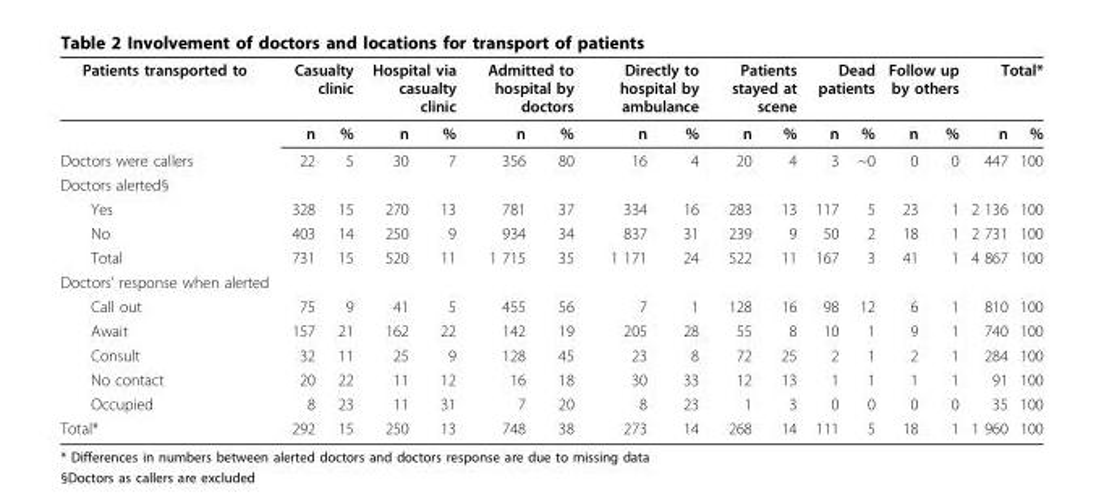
<table><thead><tr><td rowspan="2">Patients transported to</td><td colspan="2">Casualty clinic</td><td colspan="2">Hospital via casualty clinic</td><td colspan="2">Admitted to hospital by doctors</td><td colspan="2">Directly to hospital by ambulance</td><td colspan="2">Patients stayed at scene</td><td colspan="2">Dead patients</td><td colspan="2">Follow up by others</td><td colspan="2">Total*</td></tr><tr><td>n</td><td>%</td><td>n</td><td>%</td><td>n</td><td>%</td><td>n</td><td>%</td><td>n</td><td>%</td><td>n</td><td>%</td><td>n</td><td>%</td><td>n</td><td>%</td></tr></thead><tbody><tr><td>Doctors were callers</td><td>22</td><td>5</td><td>30</td><td>7</td><td>356</td><td>80</td><td>16</td><td>4</td><td>20</td><td>4</td><td>3</td><td>~0</td><td>0</td><td>0</td><td>447</td><td>100</td></tr><tr><td colspan="17">Doctors alerted§</td></tr><tr><td>Yes</td><td>328</td><td>15</td><td>270</td><td>13</td><td>781</td><td>37</td><td>334</td><td>16</td><td>283</td><td>13</td><td>117</td><td>5</td><td>23</td><td>1</td><td>2 136</td><td>100</td></tr><tr><td>No</td><td>403</td><td>14</td><td>250</td><td>9</td><td>934</td><td>34</td><td>837</td><td>31</td><td>239</td><td>9</td><td>50</td><td>2</td><td>18</td><td>1</td><td>2 731</td><td>100</td></tr><tr><td>Total</td><td>731</td><td>15</td><td>520</td><td>11</td><td>1 715</td><td>35</td><td>1 171</td><td>24</td><td>522</td><td>11</td><td>167</td><td>3</td><td>41</td><td>1</td><td>4 867</td><td>100</td></tr><tr><td colspan="17">Doctors’ response when alerted</td></tr><tr><td>Call out</td><td>75</td><td>9</td><td>41</td><td>5</td><td>455</td><td>56</td><td>7</td><td>1</td><td>128</td><td>16</td><td>98</td><td>12</td><td>6</td><td>1</td><td>810</td><td>100</td></tr><tr><td>Await</td><td>157</td><td>21</td><td>162</td><td>22</td><td>142</td><td>19</td><td>205</td><td>28</td><td>55</td><td>8</td><td>10</td><td>1</td><td>9</td><td>1</td><td>740</td><td>100</td></tr><tr><td>Consult</td><td>32</td><td>11</td><td>25</td><td>9</td><td>128</td><td>45</td><td>23</td><td>8</td><td>72</td><td>25</td><td>2</td><td>1</td><td>2</td><td>1</td><td>284</td><td>100</td></tr><tr><td>No contact</td><td>20</td><td>22</td><td>11</td><td>12</td><td>16</td><td>18</td><td>30</td><td>33</td><td>12</td><td>13</td><td>1</td><td>1</td><td>1</td><td>1</td><td>91</td><td>100</td></tr><tr><td>Occupied</td><td>8</td><td>23</td><td>11</td><td>31</td><td>7</td><td>20</td><td>8</td><td>23</td><td>1</td><td>3</td><td>0</td><td>0</td><td>0</td><td>0</td><td>35</td><td>100</td></tr><tr><td>Total*</td><td>292</td><td>15</td><td>250</td><td>13</td><td>748</td><td>38</td><td>273</td><td>14</td><td>268</td><td>14</td><td>111</td><td>5</td><td>18</td><td>1</td><td>1 960</td><td>100</td></tr></tbody></table>